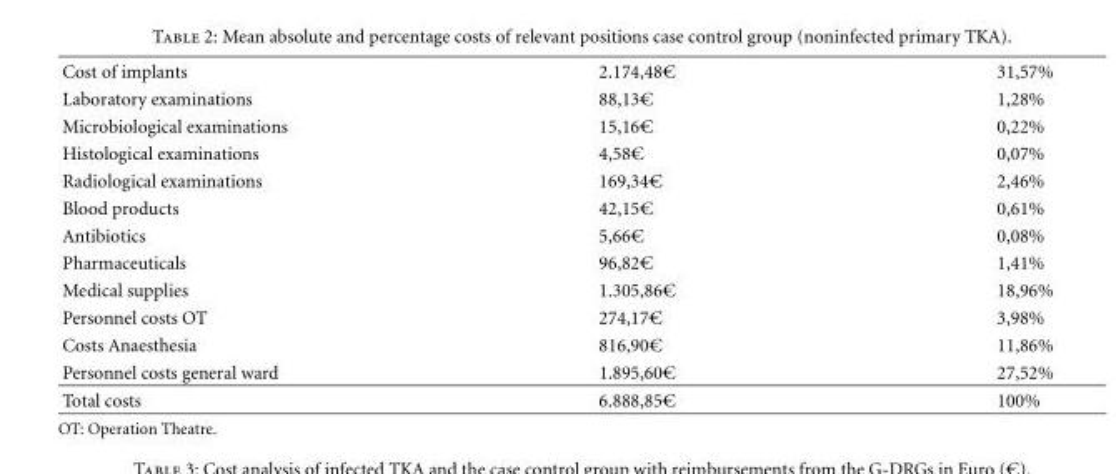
<table><tbody><tr><td>Cost of implants</td><td>2.174,48€</td><td>31,57%</td></tr><tr><td>Laboratory examinations</td><td>88,13€</td><td>1,28%</td></tr><tr><td>Microbiological examinations</td><td>15,16€</td><td>0,22%</td></tr><tr><td>Histological examinations</td><td>4,58€</td><td>0,07%</td></tr><tr><td>Radiological examinations</td><td>169,34€</td><td>2,46%</td></tr><tr><td>Blood products</td><td>42,15€</td><td>0,61%</td></tr><tr><td>Antibiotics</td><td>5,66€</td><td>0,08%</td></tr><tr><td>Pharmaceuticals</td><td>96,82€</td><td>1,41%</td></tr><tr><td>Medical supplies</td><td>1.305,86€</td><td>18,96%</td></tr><tr><td>Personnel costs OT</td><td>274,17€</td><td>3,98%</td></tr><tr><td>Costs Anaesthesia</td><td>816,90€</td><td>11,86%</td></tr><tr><td>Personnel costs general ward</td><td>1.895,60€</td><td>27,52%</td></tr><tr><td>Total costs</td><td>6.888,85€</td><td>100%</td></tr></tbody></table>